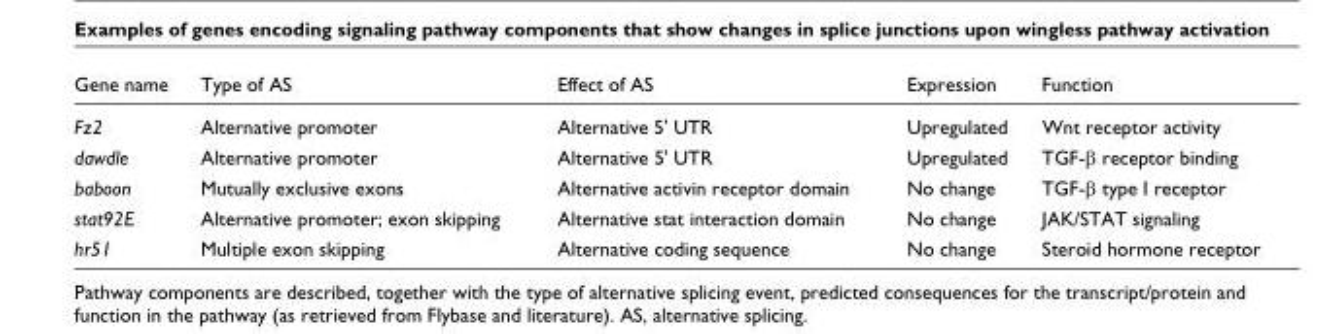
<table><thead><tr><td>Gene name</td><td>Type of AS</td><td>Effect of AS</td><td>Expression</td><td>Function</td></tr></thead><tbody><tr><td>Fz2</td><td>Alternative promoter</td><td>Alternative 5&#x27; UTR</td><td>Upregulated</td><td>Wnt receptor activity</td></tr><tr><td>dawdle</td><td>Alternative promoter</td><td>Alternative 5&#x27; UTR</td><td>Upregulated</td><td>TGF-β receptor binding</td></tr><tr><td>baboon</td><td>Mutually exclusive exons</td><td>Alternative activin receptor domain</td><td>No change</td><td>TGF-β type I receptor</td></tr><tr><td>stat92E</td><td>Alternative promoter; exon skipping</td><td>Alternative stat interaction domain</td><td>No change</td><td>JAK/STAT signaling</td></tr><tr><td>hr51</td><td>Multiple exon skipping</td><td>Alternative coding sequence</td><td>No change</td><td>Steroid hormone receptor</td></tr></tbody></table>